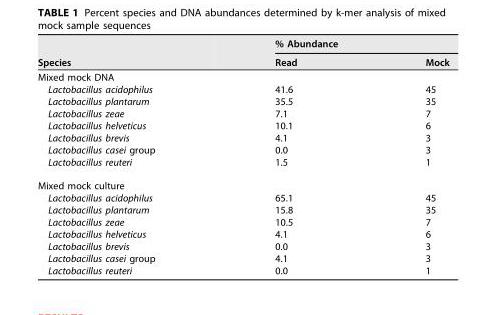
<table><thead><tr><td rowspan="2">Species</td><td colspan="2">% Abundance</td></tr><tr><td>Read</td><td>Mock</td></tr></thead><tbody><tr><td colspan="3">Mixed mock DNA</td></tr><tr><td>Lactobacillus acidophilus</td><td>41.6</td><td>45</td></tr><tr><td>Lactobacillus plantarum</td><td>35.5</td><td>35</td></tr><tr><td>Lactobacillus zeae</td><td>7.1</td><td>7</td></tr><tr><td>Lactobacillus helveticus</td><td>10.1</td><td>6</td></tr><tr><td>Lactobacillus brevis</td><td>4.1</td><td>3</td></tr><tr><td>Lactobacillus casei group</td><td>0.0</td><td>3</td></tr><tr><td>Lactobacillus reuteri</td><td>1.5</td><td>1</td></tr><tr><td colspan="3">Mixed mock culture</td></tr><tr><td>Lactobacillus acidophilus</td><td>65.1</td><td>45</td></tr><tr><td>Lactobacillus plantarum</td><td>15.8</td><td>35</td></tr><tr><td>Lactobacillus zeae</td><td>10.5</td><td>7</td></tr><tr><td>Lactobacillus helveticus</td><td>4.1</td><td>6</td></tr><tr><td>Lactobacillus brevis</td><td>0.0</td><td>3</td></tr><tr><td>Lactobacillus casei group</td><td>4.1</td><td>3</td></tr><tr><td>Lactobacillus reuteri</td><td>0.0</td><td>1</td></tr></tbody></table>